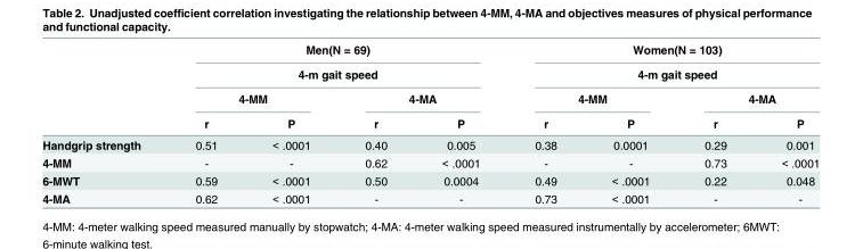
<table><thead><tr><td rowspan="4"></td><td rowspan="2" colspan="4">Men(N = 69) 4-m gait speed</td><td rowspan="2" colspan="4">Women(N = 103) 4-m gait speed</td></tr><tr></tr><tr><td colspan="2">4-MM</td><td colspan="2">4-MA</td><td colspan="2">4-MM</td><td colspan="2">4-MA</td></tr><tr><td>r</td><td>P</td><td>r</td><td>P</td><td>r</td><td>P</td><td>r</td><td>P</td></tr></thead><tbody><tr><td>Handgrip strength</td><td>0.51</td><td>&lt; .0001</td><td>0.40</td><td>0.005</td><td>0.38</td><td>0.0001</td><td>0.29</td><td>0.001</td></tr><tr><td>4-MM</td><td>-</td><td>-</td><td>0.62</td><td>&lt; .0001</td><td>-</td><td>-</td><td>0.73</td><td>&lt; .0001</td></tr><tr><td>6-MWT</td><td>0.59</td><td>&lt; .0001</td><td>0.50</td><td>0.0004</td><td>0.49</td><td>&lt; .0001</td><td>0.22</td><td>0.048</td></tr><tr><td>4-MA</td><td>0.62</td><td>&lt; .0001</td><td>-</td><td>-</td><td>0.73</td><td>&lt; .0001</td><td>-</td><td>-</td></tr></tbody></table>